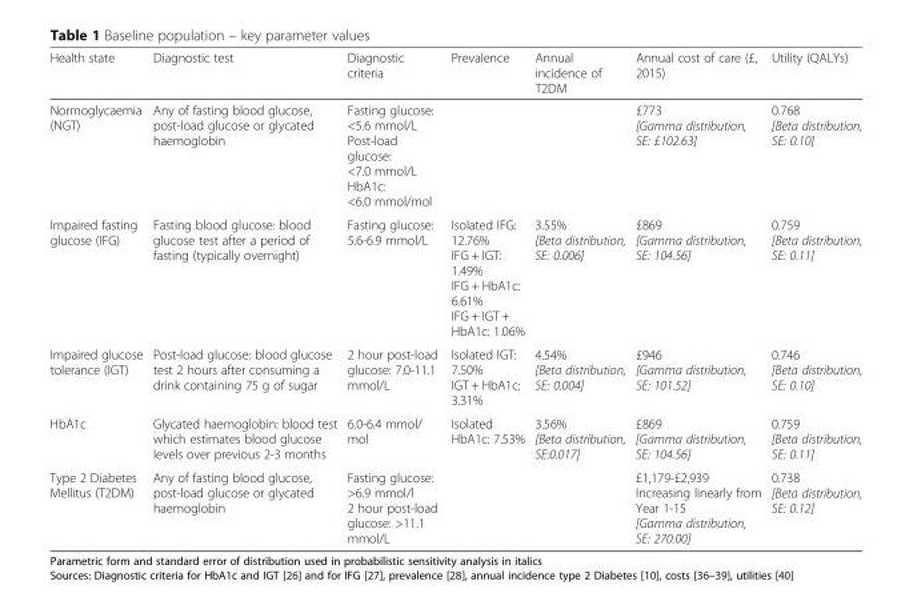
<table><thead><tr><td>Health state</td><td>Diagnostic test</td><td>Diagnostic criteria</td><td>Prevalence</td><td>Annual incidence of T2DM</td><td>Annual cost of care (£, 2015)</td><td>Utility (QALYs)</td></tr></thead><tbody><tr><td>Normoglycaemia (NGT)</td><td>Any of fasting blood glucose, post-load glucose or glycated haemoglobin</td><td>Fasting glucose: &lt;5.6 mmol/L Post-load glucose: &lt;7.0 mmol/L HbA1c: &lt;6.0 mmol/mol</td><td></td><td></td><td>£773 [Gamma distribution, SE: £102.63]</td><td>0.768 [Beta distribution, SE: 0.10]</td></tr><tr><td>Impaired fasting glucose (IFG)</td><td>Fasting blood glucose: blood glucose test after a period of fasting (typically overnight)</td><td>Fasting glucose: 5.6-6.9 mmol/L</td><td>Isolated IFG: 12.76% IFG + IGT: 1.49% IFG + HbA1c: 6.61% IFG + IGT + HbA1c: 1.06%</td><td>3.55% [Beta distribution, SE: 0.006]</td><td>£869 [Gamma distribution, SE: 104.56]</td><td>0.759 [Beta distribution, SE: 0.11]</td></tr><tr><td>Impaired glucose tolerance (IGT)</td><td>Post-load glucose: blood glucose test 2 hours after consuming a drink containing 75 g of sugar</td><td>2 hour post-load glucose: 7.0-11.1 mmol/L</td><td>Isolated IGT: 7.50% IGT + HbA1c: 3.31%</td><td>4.54% [Beta distribution, SE: 0.004]</td><td>£946 [Gamma distribution, SE: 101.52]</td><td>0.746 [Beta distribution, SE: 0.10]</td></tr><tr><td>HbA1c</td><td>Glycated haemoglobin: blood test which estimates blood glucose levels over previous 2-3 months</td><td>6.0-6.4 mmol/ mol</td><td>Isolated HbA1c: 7.53%</td><td>3.56% [Beta distribution, SE:0.017]</td><td>£869 [Gamma distribution, SE: 104.56]</td><td>0.759 [Beta distribution, SE: 0.11]</td></tr><tr><td>Type 2 Diabetes Mellitus (T2DM)</td><td>Any of fasting blood glucose, post-load glucose or glycated haemoglobin</td><td>Fasting glucose: &gt;6.9 mmol/l 2 hour post-load glucose: &gt;11.1 mmol/L</td><td></td><td></td><td>£1,179-£2,939 Increasing linearly from Year 1-15 [Gamma distribution, SE: 270.00]</td><td>0.738 [Beta distribution, SE: 0.12]</td></tr></tbody></table>